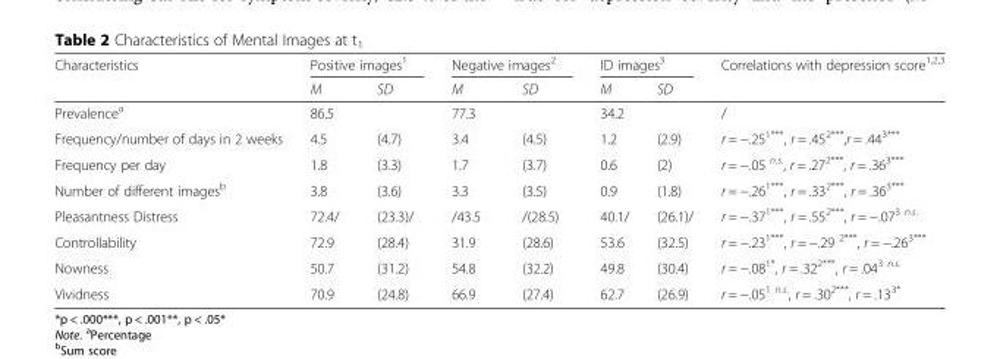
<table><thead><tr><td rowspan="2">Characteristics</td><td colspan="2">Positive images<sup>1</sup></td><td colspan="2">Negative images<sup>2</sup></td><td colspan="2">ID images<sup>3</sup></td><td rowspan="2">Correlations with depression score<sup>1,2,3</sup></td></tr><tr><td>M</td><td>SD</td><td>M</td><td>SD</td><td>M</td><td>SD</td></tr></thead><tbody><tr><td>Prevalence<sup>a</sup></td><td colspan="2">86.5</td><td colspan="2">77.3</td><td colspan="2">34.2</td><td>/</td></tr><tr><td>Frequency/number of days in 2 weeks</td><td>4.5</td><td>(4.7)</td><td>3.4</td><td>(4.5)</td><td>1.2</td><td>(2.9)</td><td>r = −.25<sup>1***</sup>, r = .45<sup>2***</sup>,r = .44<sup>3***</sup></td></tr><tr><td>Frequency per day</td><td>1.8</td><td>(3.3)</td><td>1.7</td><td>(3.7)</td><td>0.6</td><td>(2)</td><td>r = −.05 <sup>n.s.</sup>, r = .27<sup>2***</sup>, r = .36<sup>3***</sup></td></tr><tr><td>Number of different images<sup>b</sup></td><td>3.8</td><td>(3.6)</td><td>3.3</td><td>(3.5)</td><td>0.9</td><td>(1.8)</td><td>r = −.26<sup>1***</sup>, r = .33<sup>2***</sup>, r = .36<sup>3***</sup></td></tr><tr><td>Pleasantness Distress</td><td>72.4/</td><td>(23.3)/</td><td>/43.5</td><td>/(28.5)</td><td>40.1/</td><td>(26.1)/</td><td>r = −.37<sup>1***</sup>, r = .55<sup>2***</sup>, r = −.07<sup>3 n.s.</sup></td></tr><tr><td>Controllability</td><td>72.9</td><td>(28.4)</td><td>31.9</td><td>(28.6)</td><td>53.6</td><td>(32.5)</td><td>r = −.23<sup>1***</sup>, r = −.29 <sup>2***</sup>, r = −.26<sup>3***</sup></td></tr><tr><td>Nowness</td><td>50.7</td><td>(31.2)</td><td>54.8</td><td>(32.2)</td><td>49.8</td><td>(30.4)</td><td>r = −.08<sup>1*</sup>, r = .32<sup>2***</sup>, r = .04<sup>3 n.s.</sup></td></tr><tr><td>Vividness</td><td>70.9</td><td>(24.8)</td><td>66.9</td><td>(27.4)</td><td>62.7</td><td>(26.9)</td><td>r = −.05<sup>1 n.s.</sup>, r = .30<sup>2***</sup>, r = .13<sup>3*</sup></td></tr></tbody></table>